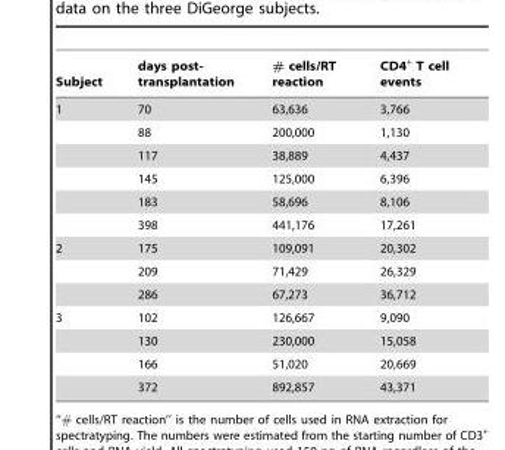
<table><thead><tr><td>Subject</td><td>days post- transplantation</td><td># cells/RT reaction</td><td>CD4<sup>+</sup> T cell events</td></tr></thead><tbody><tr><td rowspan="6">1</td><td>70</td><td>63,636</td><td>3,766</td></tr><tr><td>88</td><td>200,000</td><td>1,130</td></tr><tr><td>117</td><td>38,889</td><td>4,437</td></tr><tr><td>145</td><td>125,000</td><td>6,396</td></tr><tr><td>183</td><td>58,696</td><td>8,106</td></tr><tr><td>398</td><td>441,176</td><td>17,261</td></tr><tr><td rowspan="3">2</td><td>175</td><td>109,091</td><td>20,302</td></tr><tr><td>209</td><td>71,429</td><td>26,329</td></tr><tr><td>286</td><td>67,273</td><td>36,712</td></tr><tr><td rowspan="4">3</td><td>102</td><td>126,667</td><td>9,090</td></tr><tr><td>130</td><td>230,000</td><td>15,058</td></tr><tr><td>166</td><td>51,020</td><td>20,669</td></tr><tr><td>372</td><td>892,857</td><td>43,371</td></tr></tbody></table>